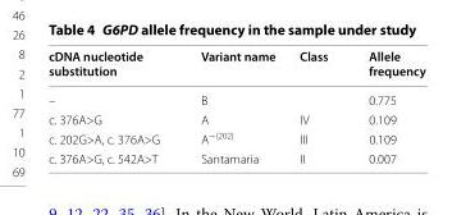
<table><thead><tr><td>cDNA nucleotide substitution</td><td>Variant name</td><td>Class</td><td>Allele frequency</td></tr></thead><tbody><tr><td>–</td><td>B</td><td></td><td>0.775</td></tr><tr><td>c. 376A&gt;G</td><td>A</td><td>IV</td><td>0.109</td></tr><tr><td>c. 202G&gt;A, c. 376A&gt;G</td><td>A<sup>−(202)</sup></td><td>III</td><td>0.109</td></tr><tr><td>c. 376A&gt;G, c. 542A&gt;T</td><td>Santamaria</td><td>II</td><td>0.007</td></tr></tbody></table>